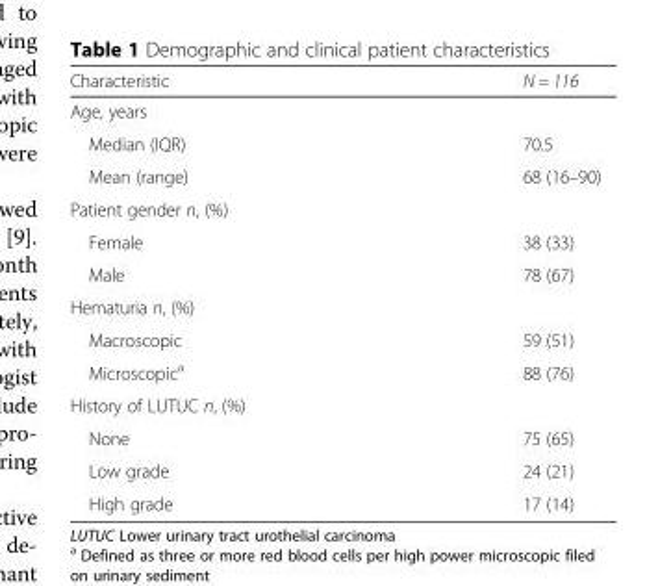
<table><thead><tr><td>Characteristic</td><td>N = 116</td></tr></thead><tbody><tr><td colspan="2">Age, years</td></tr><tr><td>Median (IQR)</td><td>70.5</td></tr><tr><td>Mean (range)</td><td>68 (16–90)</td></tr><tr><td colspan="2">Patient gender n, (%)</td></tr><tr><td>Female</td><td>38 (33)</td></tr><tr><td>Male</td><td>78 (67)</td></tr><tr><td colspan="2">Hematuria n, (%)</td></tr><tr><td>Macroscopic</td><td>59 (51)</td></tr><tr><td>Microscopic<sup>a</sup></td><td>88 (76)</td></tr><tr><td colspan="2">History of LUTUC n, (%)</td></tr><tr><td>None</td><td>75 (65)</td></tr><tr><td>Low grade</td><td>24 (21)</td></tr><tr><td>High grade</td><td>17 (14)</td></tr></tbody></table>